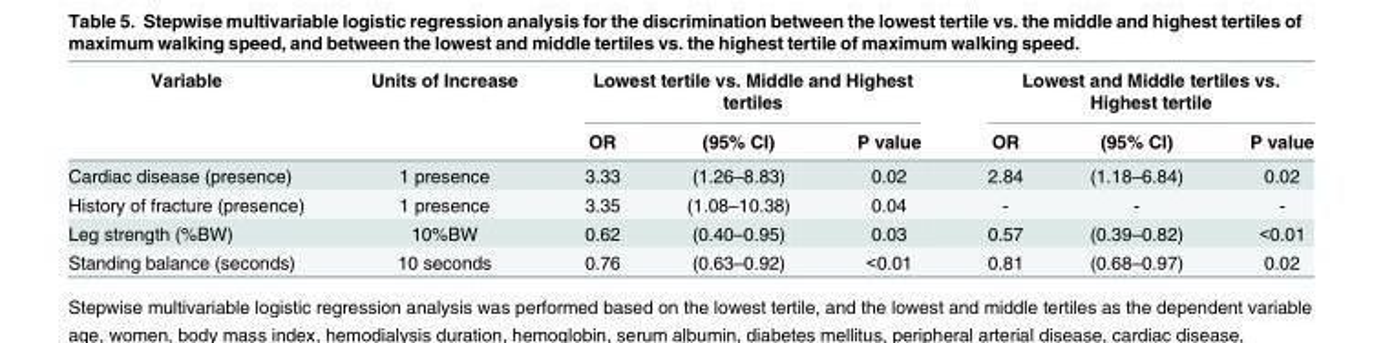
<table><thead><tr><td rowspan="2">Variable</td><td rowspan="2">Units of Increase</td><td colspan="3">Lowest tertile vs. Middle and Highest tertiles</td><td colspan="3">Lowest and Middle tertiles vs. Highest tertile</td></tr><tr><td>OR</td><td>(95% CI)</td><td>P value</td><td>OR</td><td>(95% CI)</td><td>P value</td></tr></thead><tbody><tr><td>Cardiac disease (presence)</td><td>1 presence</td><td>3.33</td><td>(1.26–8.83)</td><td>0.02</td><td>2.84</td><td>(1.18–6.84)</td><td>0.02</td></tr><tr><td>History of fracture (presence)</td><td>1 presence</td><td>3.35</td><td>(1.08–10.38)</td><td>0.04</td><td>-</td><td>-</td><td>-</td></tr><tr><td>Leg strength (%BW)</td><td>10%BW</td><td>0.62</td><td>(0.40–0.95)</td><td>0.03</td><td>0.57</td><td>(0.39–0.82)</td><td>&lt;0.01</td></tr><tr><td>Standing balance (seconds)</td><td>10 seconds</td><td>0.76</td><td>(0.63–0.92)</td><td>&lt;0.01</td><td>0.81</td><td>(0.68–0.97)</td><td>0.02</td></tr></tbody></table>